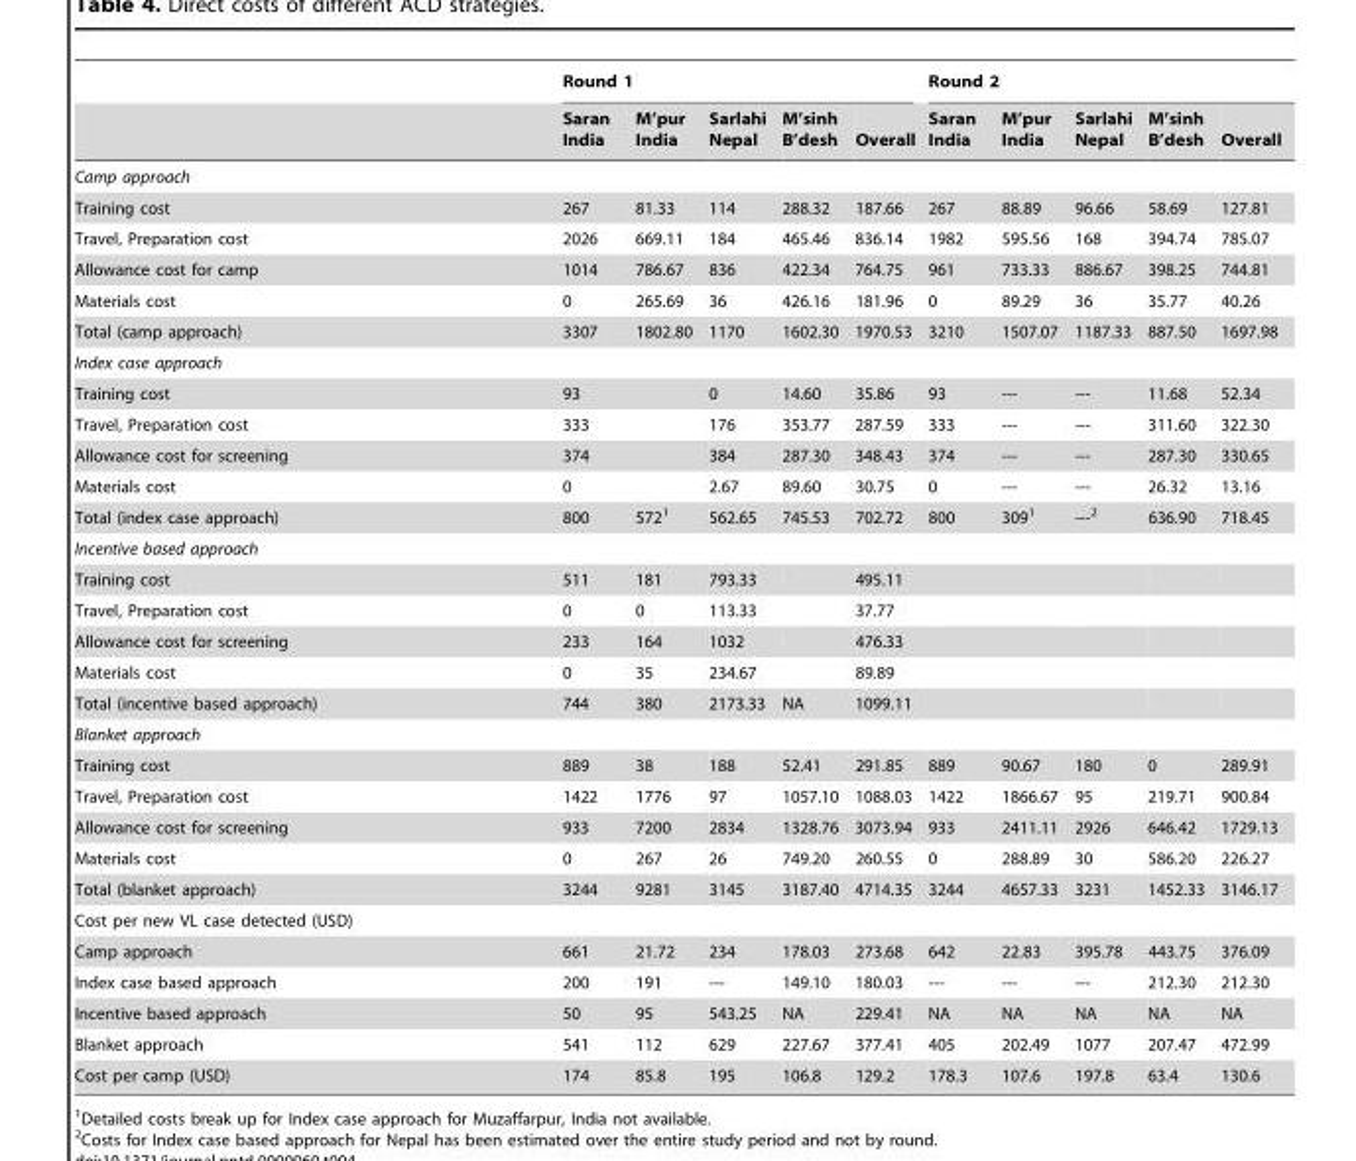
<table><thead><tr><td rowspan="2"></td><td colspan="5">Round 1</td><td colspan="5">Round 2</td></tr><tr><td>Saran India</td><td>M’pur India</td><td>Sarlahi Nepal</td><td>M’sinh B’desh</td><td>Overall</td><td>Saran India</td><td>M’pur India</td><td>Sarlahi Nepal</td><td>M’sinh B’desh</td><td>Overall</td></tr></thead><tbody><tr><td colspan="11">Camp approach</td></tr><tr><td>Training cost</td><td>267</td><td>81.33</td><td>114</td><td>288.32</td><td>187.66</td><td>267</td><td>88.89</td><td>96.66</td><td>58.69</td><td>127.81</td></tr><tr><td>Travel, Preparation cost</td><td>2026</td><td>669.11</td><td>184</td><td>465.46</td><td>836.14</td><td>1982</td><td>595.56</td><td>168</td><td>394.74</td><td>785.07</td></tr><tr><td>Allowance cost for camp</td><td>1014</td><td>786.67</td><td>836</td><td>422.34</td><td>764.75</td><td>961</td><td>733.33</td><td>886.67</td><td>398.25</td><td>744.81</td></tr><tr><td>Materials cost</td><td>0</td><td>265.69</td><td>36</td><td>426.16</td><td>181.96</td><td>0</td><td>89.29</td><td>36</td><td>35.77</td><td>40.26</td></tr><tr><td>Total (camp approach)</td><td>3307</td><td>1802.80</td><td>1170</td><td>1602.30</td><td>1970.53</td><td>3210</td><td>1507.07</td><td>1187.33</td><td>887.50</td><td>1697.98</td></tr><tr><td colspan="11">Index case approach</td></tr><tr><td>Training cost</td><td>93</td><td></td><td>0</td><td>14.60</td><td>35.86</td><td>93</td><td>---</td><td>---</td><td>11.68</td><td>52.34</td></tr><tr><td>Travel, Preparation cost</td><td>333</td><td></td><td>176</td><td>353.77</td><td>287.59</td><td>333</td><td>---</td><td>---</td><td>311.60</td><td>322.30</td></tr><tr><td>Allowance cost for screening</td><td>374</td><td></td><td>384</td><td>287.30</td><td>348.43</td><td>374</td><td>---</td><td>---</td><td>287.30</td><td>330.65</td></tr><tr><td>Materials cost</td><td>0</td><td></td><td>2.67</td><td>89.60</td><td>30.75</td><td>0</td><td>---</td><td>---</td><td>26.32</td><td>13.16</td></tr><tr><td>Total (index case approach)</td><td>800</td><td>572<sup>1</sup></td><td>562.65</td><td>745.53</td><td>702.72</td><td>800</td><td>309<sup>1</sup></td><td>---2</td><td>636.90</td><td>718.45</td></tr><tr><td colspan="11">Incentive based approach</td></tr><tr><td>Training cost</td><td>511</td><td>181</td><td>793.33</td><td></td><td>495.11</td><td></td><td></td><td></td><td></td><td></td></tr><tr><td>Travel, Preparation cost</td><td>0</td><td>0</td><td>113.33</td><td></td><td>37.77</td><td></td><td></td><td></td><td></td><td></td></tr><tr><td>Allowance cost for screening</td><td>233</td><td>164</td><td>1032</td><td></td><td>476.33</td><td></td><td></td><td></td><td></td><td></td></tr><tr><td>Materials cost</td><td>0</td><td>35</td><td>234.67</td><td></td><td>89.89</td><td></td><td></td><td></td><td></td><td></td></tr><tr><td>Total (incentive based approach)</td><td>744</td><td>380</td><td>2173.33</td><td>NA</td><td>1099.11</td><td></td><td></td><td></td><td></td><td></td></tr><tr><td colspan="11">Blanket approach</td></tr><tr><td>Training cost</td><td>889</td><td>38</td><td>188</td><td>52.41</td><td>291.85</td><td>889</td><td>90.67</td><td>180</td><td>0</td><td>289.91</td></tr><tr><td>Travel, Preparation cost</td><td>1422</td><td>1776</td><td>97</td><td>1057.10</td><td>1088.03</td><td>1422</td><td>1866.67</td><td>95</td><td>219.71</td><td>900.84</td></tr><tr><td>Allowance cost for screening</td><td>933</td><td>7200</td><td>2834</td><td>1328.76</td><td>3073.94</td><td>933</td><td>2411.11</td><td>2926</td><td>646.42</td><td>1729.13</td></tr><tr><td>Materials cost</td><td>0</td><td>267</td><td>26</td><td>749.20</td><td>260.55</td><td>0</td><td>288.89</td><td>30</td><td>586.20</td><td>226.27</td></tr><tr><td>Total (blanket approach)</td><td>3244</td><td>9281</td><td>3145</td><td>3187.40</td><td>4714.35</td><td>3244</td><td>4657.33</td><td>3231</td><td>1452.33</td><td>3146.17</td></tr><tr><td colspan="11">Cost per new VL case detected (USD)</td></tr><tr><td>Camp approach</td><td>661</td><td>21.72</td><td>234</td><td>178.03</td><td>273.68</td><td>642</td><td>22.83</td><td>395.78</td><td>443.75</td><td>376.09</td></tr><tr><td>Index case based approach</td><td>200</td><td>191</td><td>---</td><td>149.10</td><td>180.03</td><td>---</td><td>---</td><td>---</td><td>212.30</td><td>212.30</td></tr><tr><td>Incentive based approach</td><td>50</td><td>95</td><td>543.25</td><td>NA</td><td>229.41</td><td>NA</td><td>NA</td><td>NA</td><td>NA</td><td>NA</td></tr><tr><td>Blanket approach</td><td>541</td><td>112</td><td>629</td><td>227.67</td><td>377.41</td><td>405</td><td>202.49</td><td>1077</td><td>207.47</td><td>472.99</td></tr><tr><td>Cost per camp (USD)</td><td>174</td><td>85.8</td><td>195</td><td>106.8</td><td>129.2</td><td>178.3</td><td>107.6</td><td>197.8</td><td>63.4</td><td>130.6</td></tr></tbody></table>